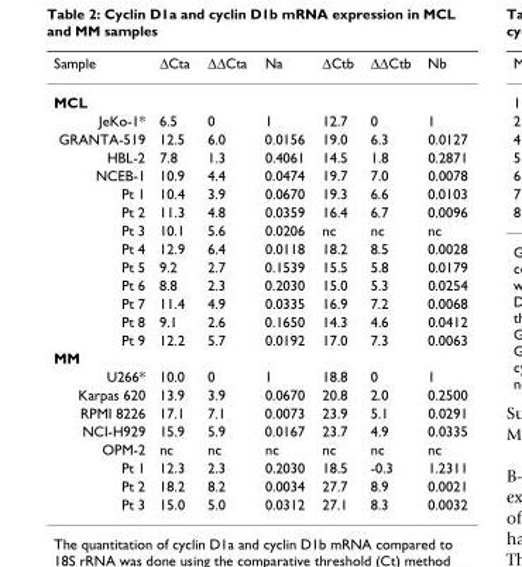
<table><thead><tr><td>Sample</td><td>ΔCta</td><td>ΔΔCta</td><td>Na</td><td>ΔCtb</td><td>ΔΔCtb</td><td>Nb</td></tr></thead><tbody><tr><td colspan="7">MCL</td></tr><tr><td>JeKo-1*</td><td>6.5</td><td>0</td><td>1</td><td>12.7</td><td>0</td><td>1</td></tr><tr><td>GRANTA-519</td><td>12.5</td><td>6.0</td><td>0.0156</td><td>19.0</td><td>6.3</td><td>0.0127</td></tr><tr><td>HBL-2</td><td>7.8</td><td>1.3</td><td>0.4061</td><td>14.5</td><td>1.8</td><td>0.2871</td></tr><tr><td>NCEB-1</td><td>10.9</td><td>4.4</td><td>0.0474</td><td>19.7</td><td>7.0</td><td>0.0078</td></tr><tr><td>Pt 1</td><td>10.4</td><td>3.9</td><td>0.0670</td><td>19.3</td><td>6.6</td><td>0.0103</td></tr><tr><td>Pt 2</td><td>11.3</td><td>4.8</td><td>0.0359</td><td>16.4</td><td>6.7</td><td>0.0096</td></tr><tr><td>Pt 3</td><td>10.1</td><td>5.6</td><td>0.0206</td><td>nc</td><td>nc</td><td>nc</td></tr><tr><td>Pt 4</td><td>12.9</td><td>6.4</td><td>0.0118</td><td>18.2</td><td>8.5</td><td>0.0028</td></tr><tr><td>Pt 5</td><td>9.2</td><td>2.7</td><td>0.1539</td><td>15.5</td><td>5.8</td><td>0.0179</td></tr><tr><td>Pt 6</td><td>8.8</td><td>2.3</td><td>0.2030</td><td>15.0</td><td>5.3</td><td>0.0254</td></tr><tr><td>Pt 7</td><td>11.4</td><td>4.9</td><td>0.0335</td><td>16.9</td><td>7.2</td><td>0.0068</td></tr><tr><td>Pt 8</td><td>9.1</td><td>2.6</td><td>0.1650</td><td>14.3</td><td>4.6</td><td>0.0412</td></tr><tr><td>Pt 9</td><td>12.2</td><td>5.7</td><td>0.0192</td><td>17.0</td><td>7.3</td><td>0.0063</td></tr><tr><td colspan="7">MM</td></tr><tr><td>U266*</td><td>10.0</td><td>0</td><td>1</td><td>18.8</td><td>0</td><td>1</td></tr><tr><td>Karpas 620</td><td>13.9</td><td>3.9</td><td>0.0670</td><td>20.8</td><td>2.0</td><td>0.2500</td></tr><tr><td>RPMI 8226</td><td>17.1</td><td>7.1</td><td>0.0073</td><td>23.9</td><td>5.1</td><td>0.0291</td></tr><tr><td>NCI-H929</td><td>15.9</td><td>5.9</td><td>0.0167</td><td>23.7</td><td>4.9</td><td>0.0335</td></tr><tr><td>OPM-2</td><td>nc</td><td>nc</td><td>nc</td><td>nc</td><td>nc</td><td>nc</td></tr><tr><td>Pt 1</td><td>12.3</td><td>2.3</td><td>0.2030</td><td>18.5</td><td>-0.3</td><td>1.2311</td></tr><tr><td>Pt 2</td><td>18.2</td><td>8.2</td><td>0.0034</td><td>27.7</td><td>8.9</td><td>0.0021</td></tr><tr><td>Pt 3</td><td>15.0</td><td>5.0</td><td>0.0312</td><td>27.1</td><td>8.3</td><td>0.0032</td></tr></tbody></table>